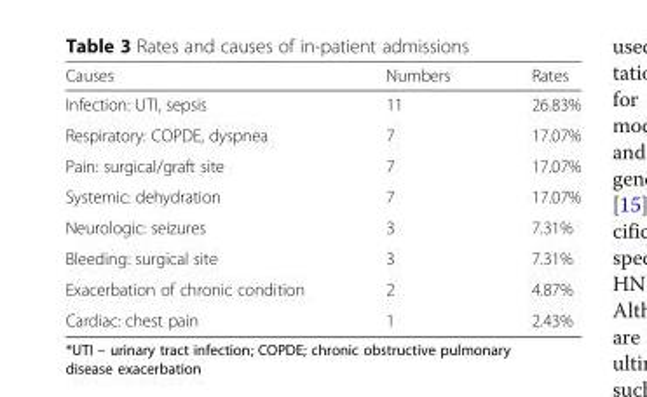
<table><thead><tr><td>Causes</td><td>Numbers</td><td>Rates</td></tr></thead><tbody><tr><td>Infection: UTI, sepsis</td><td>11</td><td>26.83%</td></tr><tr><td>Respiratory: COPDE, dyspnea</td><td>7</td><td>17.07%</td></tr><tr><td>Pain: surgical/graft site</td><td>7</td><td>17.07%</td></tr><tr><td>Systemic: dehydration</td><td>7</td><td>17.07%</td></tr><tr><td>Neurologic: seizures</td><td>3</td><td>7.31%</td></tr><tr><td>Bleeding: surgical site</td><td>3</td><td>7.31%</td></tr><tr><td>Exacerbation of chronic condition</td><td>2</td><td>4.87%</td></tr><tr><td>Cardiac: chest pain</td><td>1</td><td>2.43%</td></tr></tbody></table>